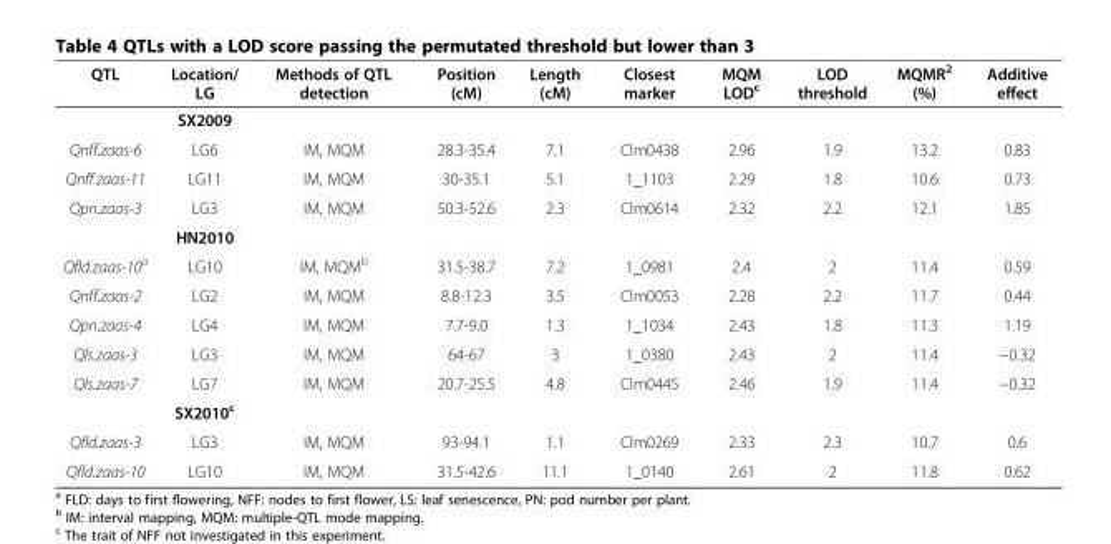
<table><thead><tr><td>QTL</td><td>Location/ LG</td><td>Methods of QTL detection</td><td>Position (cM)</td><td>Length (cM)</td><td>Closest marker</td><td>MQM LOD<sup>c</sup></td><td>LOD threshold</td><td>MQMR<sup>2</sup> (%)</td><td>Additive effect</td></tr></thead><tbody><tr><td></td><td>SX2009</td><td></td><td></td><td></td><td></td><td></td><td></td><td></td><td></td></tr><tr><td>Qnff.zaas-6</td><td>LG6</td><td>IM, MQM</td><td>28.3-35.4</td><td>7.1</td><td>Clm0438</td><td>2.96</td><td>1.9</td><td>13.2</td><td>0.83</td></tr><tr><td>Qnff.zaas-11</td><td>LG11</td><td>IM, MQM</td><td>30-35.1</td><td>5.1</td><td>1_1103</td><td>2.29</td><td>1.8</td><td>10.6</td><td>0.73</td></tr><tr><td rowspan="2">Qpn.zaas-3</td><td>LG3</td><td>IM, MQM</td><td>50.3-52.6</td><td>2.3</td><td>Clm0614</td><td>2.32</td><td>2.2</td><td>12.1</td><td>1.85</td></tr><tr><td>HN2010</td><td></td><td></td><td></td><td></td><td></td><td></td><td></td><td></td></tr><tr><td>Qfld.zaas-10<sup>a</sup></td><td>LG10</td><td>IM, MQM<sup>b</sup></td><td>31.5-38.7</td><td>7.2</td><td>1_0981</td><td>2.4</td><td>2</td><td>11.4</td><td>0.59</td></tr><tr><td>Qnff.zaas-2</td><td>LG2</td><td>IM, MQM</td><td>8.8-12.3</td><td>3.5</td><td>Clm0053</td><td>2.28</td><td>2.2</td><td>11.7</td><td>0.44</td></tr><tr><td>Qpn.zaas-4</td><td>LG4</td><td>IM, MQM</td><td>7.7-9.0</td><td>1.3</td><td>1_1034</td><td>2.43</td><td>1.8</td><td>11.3</td><td>1.19</td></tr><tr><td>Qls.zaas-3</td><td>LG3</td><td>IM, MQM</td><td>64-67</td><td>3</td><td>1_0380</td><td>2.43</td><td>2</td><td>11.4</td><td>−0.32</td></tr><tr><td rowspan="2">Qls.zaas-7</td><td>LG7</td><td>IM, MQM</td><td>20.7-25.5</td><td>4.8</td><td>Clm0445</td><td>2.46</td><td>1.9</td><td>11.4</td><td>−0.32</td></tr><tr><td>SX2010<sup>c</sup></td><td></td><td></td><td></td><td></td><td></td><td></td><td></td><td></td></tr><tr><td>Qfld.zaas-3</td><td>LG3</td><td>IM, MQM</td><td>93-94.1</td><td>1.1</td><td>Clm0269</td><td>2.33</td><td>2.3</td><td>10.7</td><td>0.6</td></tr><tr><td>Qfld.zaas-10</td><td>LG10</td><td>IM, MQM</td><td>31.5-42.6</td><td>11.1</td><td>1_0140</td><td>2.61</td><td>2</td><td>11.8</td><td>0.62</td></tr></tbody></table>